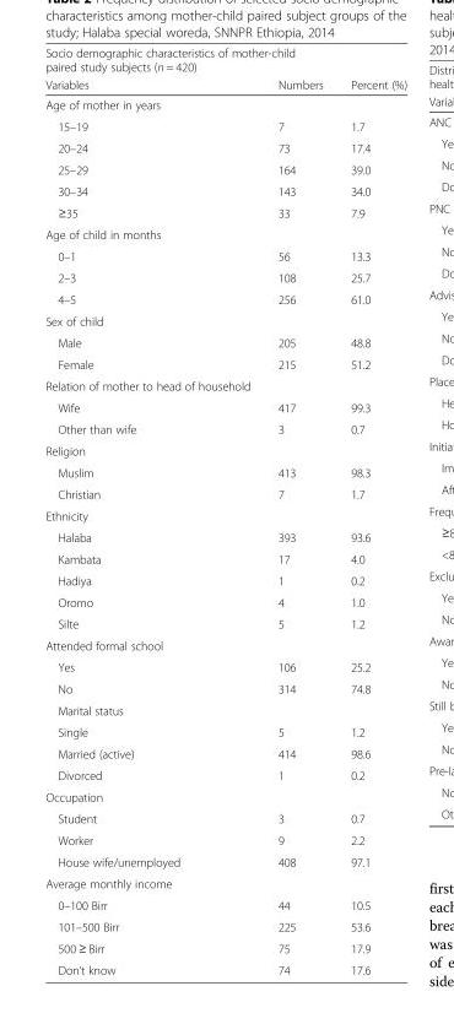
<table><thead><tr><td colspan="3">Socio demographic characteristics of mother-child paired study subjects (n = 420)</td></tr><tr><td>Variables</td><td>Numbers</td><td>Percent (%)</td></tr></thead><tbody><tr><td colspan="3">Age of mother in years</td></tr><tr><td>15–19</td><td>7</td><td>1.7</td></tr><tr><td>20–24</td><td>73</td><td>17.4</td></tr><tr><td>25–29</td><td>164</td><td>39.0</td></tr><tr><td>30–34</td><td>143</td><td>34.0</td></tr><tr><td>≥35</td><td>33</td><td>7.9</td></tr><tr><td colspan="3">Age of child in months</td></tr><tr><td>0–1</td><td>56</td><td>13.3</td></tr><tr><td>2–3</td><td>108</td><td>25.7</td></tr><tr><td>4–5</td><td>256</td><td>61.0</td></tr><tr><td colspan="3">Sex of child</td></tr><tr><td>Male</td><td>205</td><td>48.8</td></tr><tr><td>Female</td><td>215</td><td>51.2</td></tr><tr><td colspan="3">Relation of mother to head of household</td></tr><tr><td>Wife</td><td>417</td><td>99.3</td></tr><tr><td>Other than wife</td><td>3</td><td>0.7</td></tr><tr><td colspan="3">Religion</td></tr><tr><td>Muslim</td><td>413</td><td>98.3</td></tr><tr><td>Christian</td><td>7</td><td>1.7</td></tr><tr><td colspan="3">Ethnicity</td></tr><tr><td>Halaba</td><td>393</td><td>93.6</td></tr><tr><td>Kambata</td><td>17</td><td>4.0</td></tr><tr><td>Hadiya</td><td>1</td><td>0.2</td></tr><tr><td>Oromo</td><td>4</td><td>1.0</td></tr><tr><td>Silte</td><td>5</td><td>1.2</td></tr><tr><td colspan="3">Attended formal school</td></tr><tr><td>Yes</td><td>106</td><td>25.2</td></tr><tr><td>No</td><td>314</td><td>74.8</td></tr><tr><td colspan="3">Marital status</td></tr><tr><td>Single</td><td>5</td><td>1.2</td></tr><tr><td>Married (active)</td><td>414</td><td>98.6</td></tr><tr><td>Divorced</td><td>1</td><td>0.2</td></tr><tr><td colspan="3">Occupation</td></tr><tr><td>Student</td><td>3</td><td>0.7</td></tr><tr><td>Worker</td><td>9</td><td>2.2</td></tr><tr><td>House wife/unemployed</td><td>408</td><td>97.1</td></tr><tr><td colspan="3">Average monthly income</td></tr><tr><td>0–100 Birr</td><td>44</td><td>10.5</td></tr><tr><td>101–500 Birr</td><td>225</td><td>53.6</td></tr><tr><td>500 ≥ Birr</td><td>75</td><td>17.9</td></tr><tr><td>Don’t know</td><td>74</td><td>17.6</td></tr></tbody></table>